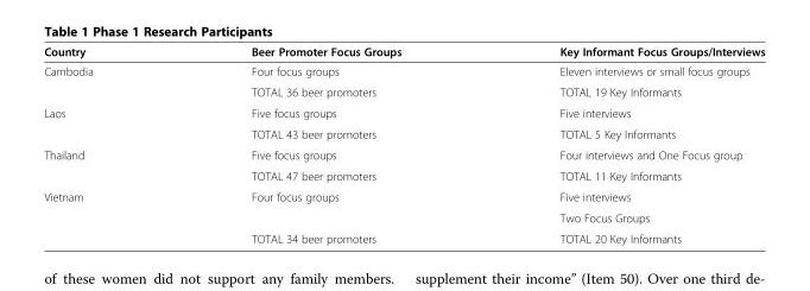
<table><thead><tr><td>Country</td><td>Beer Promoter Focus Groups</td><td>Key Informant Focus Groups/Interviews</td></tr></thead><tbody><tr><td rowspan="2">Cambodia</td><td>Four focus groups</td><td>Eleven interviews or small focus groups</td></tr><tr><td>TOTAL 36 beer promoters</td><td>TOTAL 19 Key Informants</td></tr><tr><td rowspan="2">Laos</td><td>Five focus groups</td><td>Five interviews</td></tr><tr><td>TOTAL 43 beer promoters</td><td>TOTAL 5 Key Informants</td></tr><tr><td rowspan="2">Thailand</td><td>Five focus groups</td><td>Four interviews and One Focus group</td></tr><tr><td>TOTAL 47 beer promoters</td><td>TOTAL 11 Key Informants</td></tr><tr><td rowspan="3">Vietnam</td><td rowspan="2">Four focus groups</td><td>Five interviews</td></tr><tr><td>Two Focus Groups</td></tr><tr><td>TOTAL 34 beer promoters</td><td>TOTAL 20 Key Informants</td></tr></tbody></table>